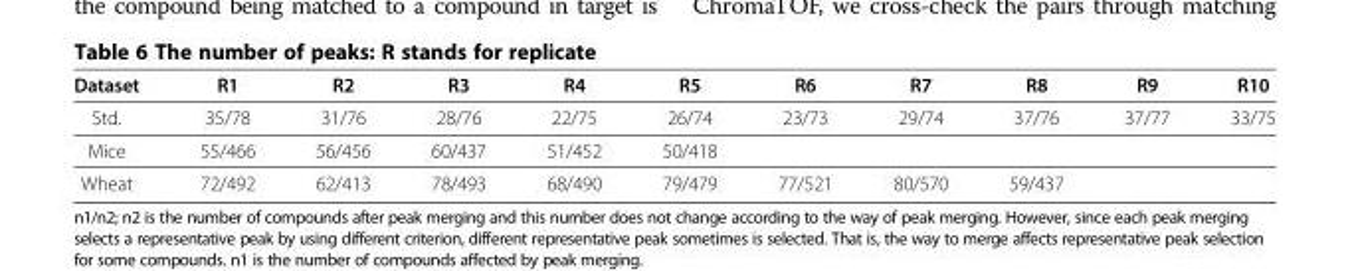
<table><thead><tr><td>Dataset</td><td>R1</td><td>R2</td><td>R3</td><td>R4</td><td>R5</td><td>R6</td><td>R7</td><td>R8</td><td>R9</td><td>R10</td></tr></thead><tbody><tr><td>Std.</td><td>35/78</td><td>31/76</td><td>28/76</td><td>22/75</td><td>26/74</td><td>23/73</td><td>29/74</td><td>37/76</td><td>37/77</td><td>33/75</td></tr><tr><td>Mice</td><td>55/466</td><td>56/456</td><td>60/437</td><td>51/452</td><td>50/418</td><td></td><td></td><td></td><td></td><td></td></tr><tr><td>Wheat</td><td>72/492</td><td>62/413</td><td>78/493</td><td>68/490</td><td>79/479</td><td>77/521</td><td>80/570</td><td>59/437</td><td></td><td></td></tr></tbody></table>